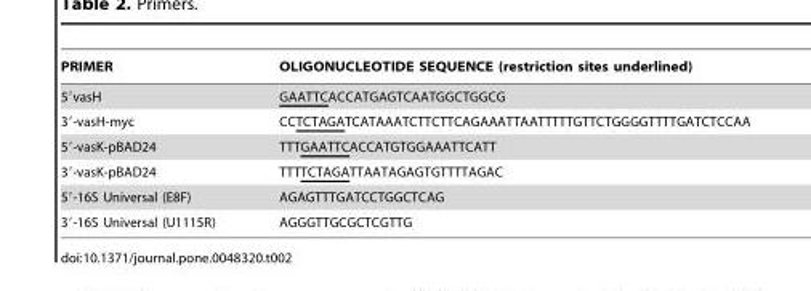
<table><thead><tr><td>PRIMER</td><td>OLIGONUCLEOTIDE SEQUENCE (restriction sites underlined)</td></tr></thead><tbody><tr><td>5′vasH</td><td>GAATTCACCATGAGTCAATGGCTGGCG</td></tr><tr><td>3′-vasH-myc</td><td>CCTCTAGATCATAAATCTTCTTCAGAAATTAATTTTTGTTCTGGGGTTTTGATCTCCAA</td></tr><tr><td>5′-vasK-pBAD24</td><td>TTTGAATTCACCATGTGGAAATTCATT</td></tr><tr><td>3′-vasK-pBAD24</td><td>TTTTCTAGATTAATAGAGTGTTTTAGAC</td></tr><tr><td>5′-16S Universal (E8F)</td><td>AGAGTTTGATCCTGGCTCAG</td></tr><tr><td>3′-16S Universal (U1115R)</td><td>AGGGTTGCGCTCGTTG</td></tr></tbody></table>